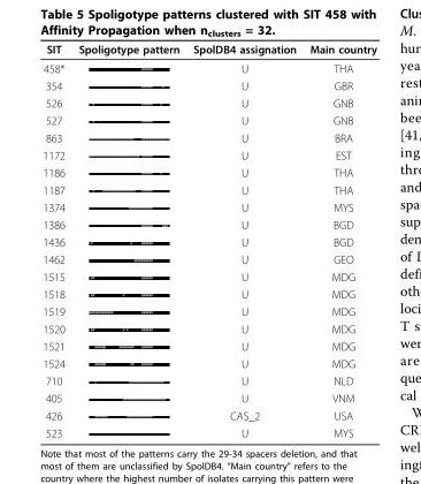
<table><thead><tr><td>SIT</td><td>Spoligotype pattern</td><td>SpolDB4 assignation</td><td>Main country</td></tr></thead><tbody><tr><td>458*</td><td></td><td>U</td><td>THA</td></tr><tr><td>354</td><td></td><td>U</td><td>GBR</td></tr><tr><td>526</td><td></td><td>U</td><td>GNB</td></tr><tr><td>527</td><td></td><td>U</td><td>GNB</td></tr><tr><td>863</td><td></td><td>U</td><td>BRA</td></tr><tr><td>1172</td><td></td><td>U</td><td>EST</td></tr><tr><td>1186</td><td></td><td>U</td><td>THA</td></tr><tr><td>1187</td><td></td><td>U</td><td>THA</td></tr><tr><td>1374</td><td></td><td>U</td><td>MYS</td></tr><tr><td>1386</td><td></td><td>U</td><td>BGD</td></tr><tr><td>1436</td><td></td><td>U</td><td>BGD</td></tr><tr><td>1462</td><td></td><td>U</td><td>GEO</td></tr><tr><td>1515</td><td></td><td>U</td><td>MDG</td></tr><tr><td>1518</td><td></td><td>U</td><td>MDG</td></tr><tr><td>1519</td><td></td><td>U</td><td>MDG</td></tr><tr><td>1520</td><td></td><td>U</td><td>MDG</td></tr><tr><td>1521</td><td></td><td>U</td><td>MDG</td></tr><tr><td>1524</td><td></td><td>U</td><td>MDG</td></tr><tr><td>710</td><td></td><td>U</td><td>NLD</td></tr><tr><td>405</td><td></td><td>U</td><td>VNM</td></tr><tr><td>426</td><td></td><td>CAS_2</td><td>USA</td></tr><tr><td>523</td><td></td><td>U</td><td>MYS</td></tr></tbody></table>